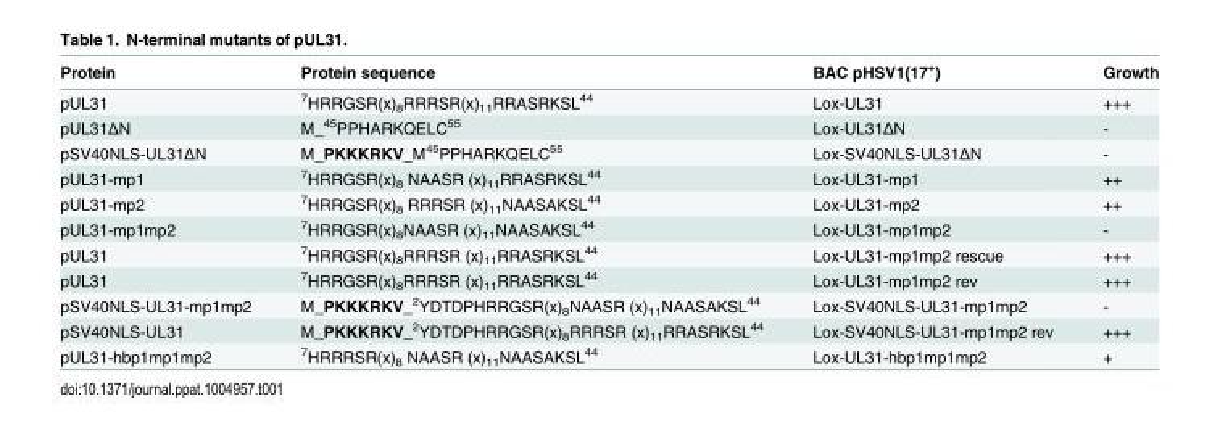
<table><thead><tr><td>Protein</td><td>Protein sequence</td><td>BAC pHSV1(17<sup>+</sup>)</td><td>Growth</td></tr></thead><tbody><tr><td>pUL31</td><td><sup>7</sup>HRRGSR(x)<sub>8</sub>RRRSR(x)<sub>11</sub>RRASRKSL<sup>44</sup></td><td>Lox-UL31</td><td>+++</td></tr><tr><td>pUL31ΔN</td><td>M_<sup>45</sup>PPHARKQELC<sup>55</sup></td><td>Lox-UL31ΔN</td><td>-</td></tr><tr><td>pSV40NLS-UL31ΔN</td><td>M_PKKKRKV_M<sup>45</sup>PPHARKQELC<sup>55</sup></td><td>Lox-SV40NLS-UL31ΔN</td><td>-</td></tr><tr><td>pUL31-mp1</td><td><sup>7</sup>HRRGSR(x)<sub>8</sub> NAASR (x)<sub>11</sub>RRASRKSL<sup>44</sup></td><td>Lox-UL31-mp1</td><td>++</td></tr><tr><td>pUL31-mp2</td><td><sup>7</sup>HRRGSR(x)<sub>8</sub> RRRSR (x)<sub>11</sub>NAASAKSL<sup>44</sup></td><td>Lox-UL31-mp2</td><td>++</td></tr><tr><td>pUL31-mp1mp2</td><td><sup>7</sup>HRRGSR(x)<sub>8</sub>NAASR (x)<sub>11</sub>NAASAKSL<sup>44</sup></td><td>Lox-UL31-mp1mp2</td><td>-</td></tr><tr><td>pUL31</td><td><sup>7</sup>HRRGSR(x)<sub>8</sub>RRRSR (x)<sub>11</sub>RRASRKSL<sup>44</sup></td><td>Lox-UL31-mp1mp2 rescue</td><td>+++</td></tr><tr><td>pUL31</td><td><sup>7</sup>HRRGSR(x)<sub>8</sub>RRRSR (x)<sub>11</sub>RRASRKSL<sup>44</sup></td><td>Lox-UL31-mp1mp2 rev</td><td>+++</td></tr><tr><td>pSV40NLS-UL31-mp1mp2</td><td>M_PKKKRKV_<sup>2</sup>YDTDPHRRGSR(x)<sub>8</sub>NAASR (x)<sub>11</sub>NAASAKSL<sup>44</sup></td><td>Lox-SV40NLS-UL31-mp1mp2</td><td>-</td></tr><tr><td>pSV40NLS-UL31</td><td>M_PKKKRKV_<sup>2</sup>YDTDPHRRGSR(x)<sub>8</sub>RRRSR (x)<sub>11</sub>RRASRKSL<sup>44</sup></td><td>Lox-SV40NLS-UL31-mp1mp2 rev</td><td>+++</td></tr><tr><td>pUL31-hbp1mp1mp2</td><td><sup>7</sup>HRRRSR(x)<sub>8</sub> NAASR (x)<sub>11</sub>NAASAKSL<sup>44</sup></td><td>Lox-UL31-hbp1mp1mp2</td><td>+</td></tr></tbody></table>